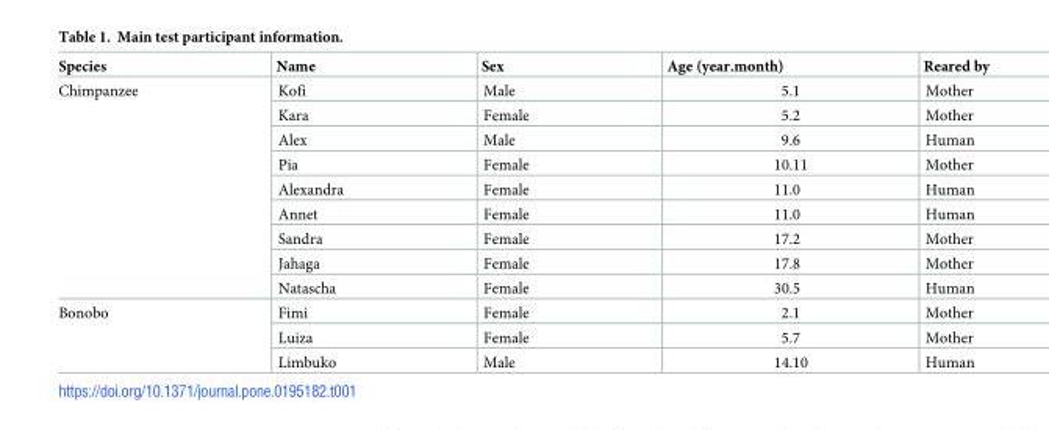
<table><thead><tr><td>Species</td><td>Name</td><td>Sex</td><td>Age (year.month)</td><td>Reared by</td></tr></thead><tbody><tr><td rowspan="9">Chimpanzee</td><td>Kofi</td><td>Male</td><td>5.1</td><td>Mother</td></tr><tr><td>Kara</td><td>Female</td><td>5.2</td><td>Mother</td></tr><tr><td>Alex</td><td>Male</td><td>9.6</td><td>Human</td></tr><tr><td>Pia</td><td>Female</td><td>10.11</td><td>Mother</td></tr><tr><td>Alexandra</td><td>Female</td><td>11.0</td><td>Human</td></tr><tr><td>Annet</td><td>Female</td><td>11.0</td><td>Human</td></tr><tr><td>Sandra</td><td>Female</td><td>17.2</td><td>Mother</td></tr><tr><td>Jahaga</td><td>Female</td><td>17.8</td><td>Mother</td></tr><tr><td>Natascha</td><td>Female</td><td>30.5</td><td>Human</td></tr><tr><td rowspan="3">Bonobo</td><td>Fimi</td><td>Female</td><td>2.1</td><td>Mother</td></tr><tr><td>Luiza</td><td>Female</td><td>5.7</td><td>Mother</td></tr><tr><td>Limbuko</td><td>Male</td><td>14.10</td><td>Human</td></tr></tbody></table>